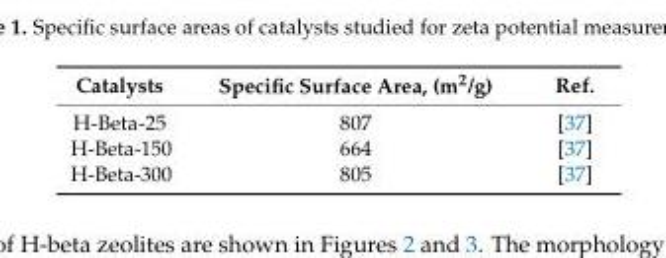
<table><thead><tr><td>Catalysts</td><td>Specific Surface Area, (m<sup>2</sup>/g)</td><td>Ref.</td></tr></thead><tbody><tr><td>H-Beta-25</td><td>807</td><td>[37]</td></tr><tr><td>H-Beta-150</td><td>664</td><td>[37]</td></tr><tr><td>H-Beta-300</td><td>805</td><td>[37]</td></tr></tbody></table>